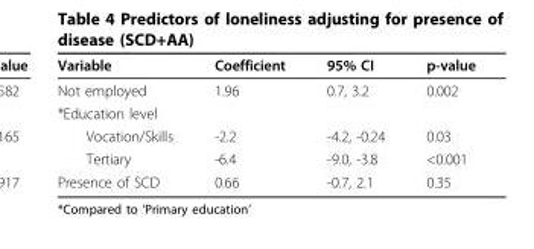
<table><thead><tr><td>Variable</td><td>Coefficient</td><td>95% CI</td><td>p-value</td></tr></thead><tbody><tr><td>Not employed</td><td>1.96</td><td>0.7, 3.2</td><td>0.002</td></tr><tr><td colspan="4">*Education level</td></tr><tr><td>Vocation/Skills</td><td>-2.2</td><td>-4.2, -0.24</td><td>0.03</td></tr><tr><td>Tertiary</td><td>-6.4</td><td>-9.0, -3.8</td><td>&lt;0.001</td></tr><tr><td>Presence of SCD</td><td>0.66</td><td>-0.7, 2.1</td><td>0.35</td></tr></tbody></table>